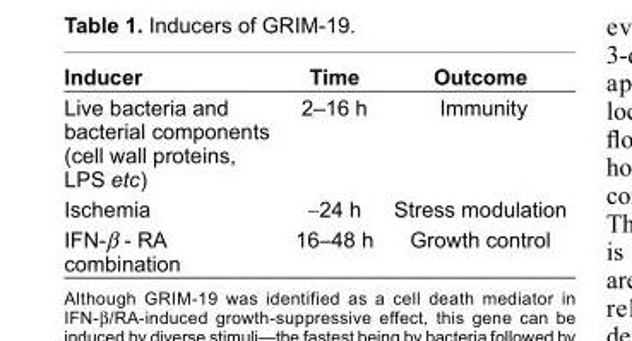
<table><thead><tr><td>Inducer</td><td>Time</td><td>Outcome</td></tr></thead><tbody><tr><td>Live bacteria and bacterial components (cell wall proteins, LPS etc)</td><td>2–16 h</td><td>Immunity</td></tr><tr><td>Ischemia</td><td>∼24 h</td><td>Stress modulation</td></tr><tr><td>IFN-β - RA combination</td><td>16–48 h</td><td>Growth control</td></tr></tbody></table>